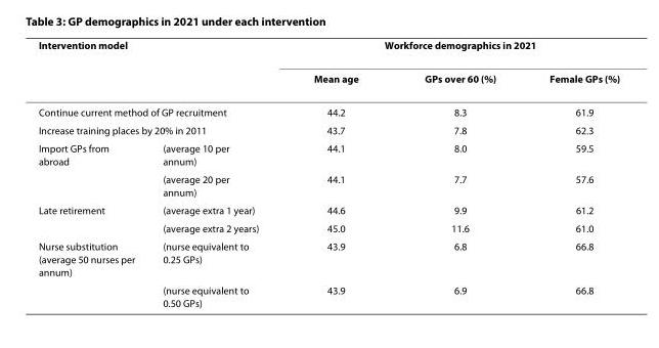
<table><thead><tr><td colspan="2">Intervention model</td><td colspan="3">Workforce demographics in 2021</td></tr><tr><td></td><td></td><td>Mean age</td><td>GPs over 60 (%)</td><td>Female GPs (%)</td></tr></thead><tbody><tr><td colspan="2">Continue current method of GP recruitment</td><td>44.2</td><td>8.3</td><td>61.9</td></tr><tr><td colspan="2">Increase training places by 20% in 2011</td><td>43.7</td><td>7.8</td><td>62.3</td></tr><tr><td rowspan="2">Import GPs from abroad</td><td>(average 10 per annum)</td><td>44.1</td><td>8.0</td><td>59.5</td></tr><tr><td>(average 20 per annum)</td><td>44.1</td><td>7.7</td><td>57.6</td></tr><tr><td rowspan="2">Late retirement</td><td>(average extra 1 year)</td><td>44.6</td><td>9.9</td><td>61.2</td></tr><tr><td>(average extra 2 years)</td><td>45.0</td><td>11.6</td><td>61.0</td></tr><tr><td rowspan="2">Nurse substitution (average 50 nurses per annum)</td><td>(nurse equivalent to 0.25 GPs)</td><td>43.9</td><td>6.8</td><td>66.8</td></tr><tr><td>(nurse equivalent to 0.50 GPs)</td><td>43.9</td><td>6.9</td><td>66.8</td></tr></tbody></table>